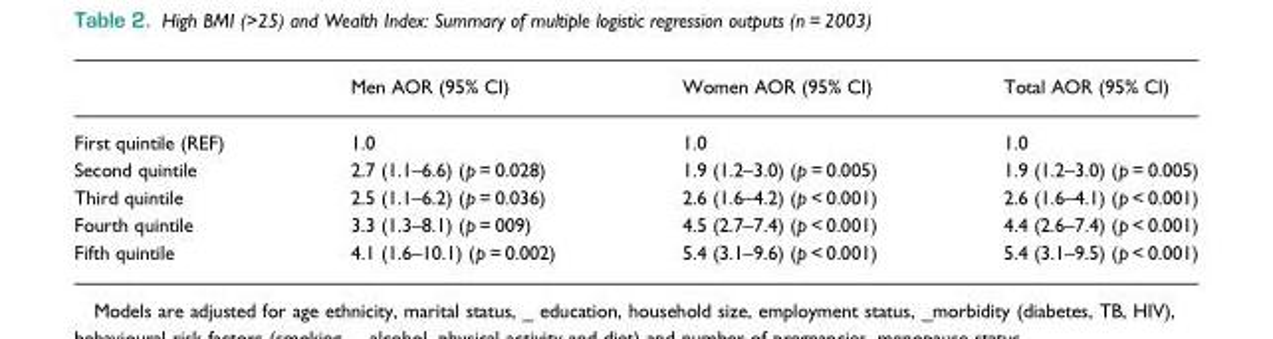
<table><thead><tr><td></td><td>Men AOR (95% CI)</td><td>Women AOR (95% CI)</td><td>Total AOR (95% CI)</td></tr></thead><tbody><tr><td>First quintile (REF)</td><td>1.0</td><td>1.0</td><td>1.0</td></tr><tr><td>Second quintile</td><td>2.7 (1.1–6.6) (p = 0.028)</td><td>1.9 (1.2–3.0) (p = 0.005)</td><td>1.9 (1.2–3.0) (p = 0.005)</td></tr><tr><td>Third quintile</td><td>2.5 (1.1–6.2) (p = 0.036)</td><td>2.6 (1.6–4.2) (p &lt; 0.001)</td><td>2.6 (1.6–4.1) (p &lt; 0.001)</td></tr><tr><td>Fourth quintile</td><td>3.3 (1.3–8.1) (p = 009)</td><td>4.5 (2.7–7.4) (p &lt; 0.001)</td><td>4.4 (2.6–7.4) (p &lt; 0.001)</td></tr><tr><td>Fifth quintile</td><td>4.1 (1.6–10.1) (p = 0.002)</td><td>5.4 (3.1–9.6) (p &lt; 0.001)</td><td>5.4 (3.1–9.5) (p &lt; 0.001)</td></tr></tbody></table>